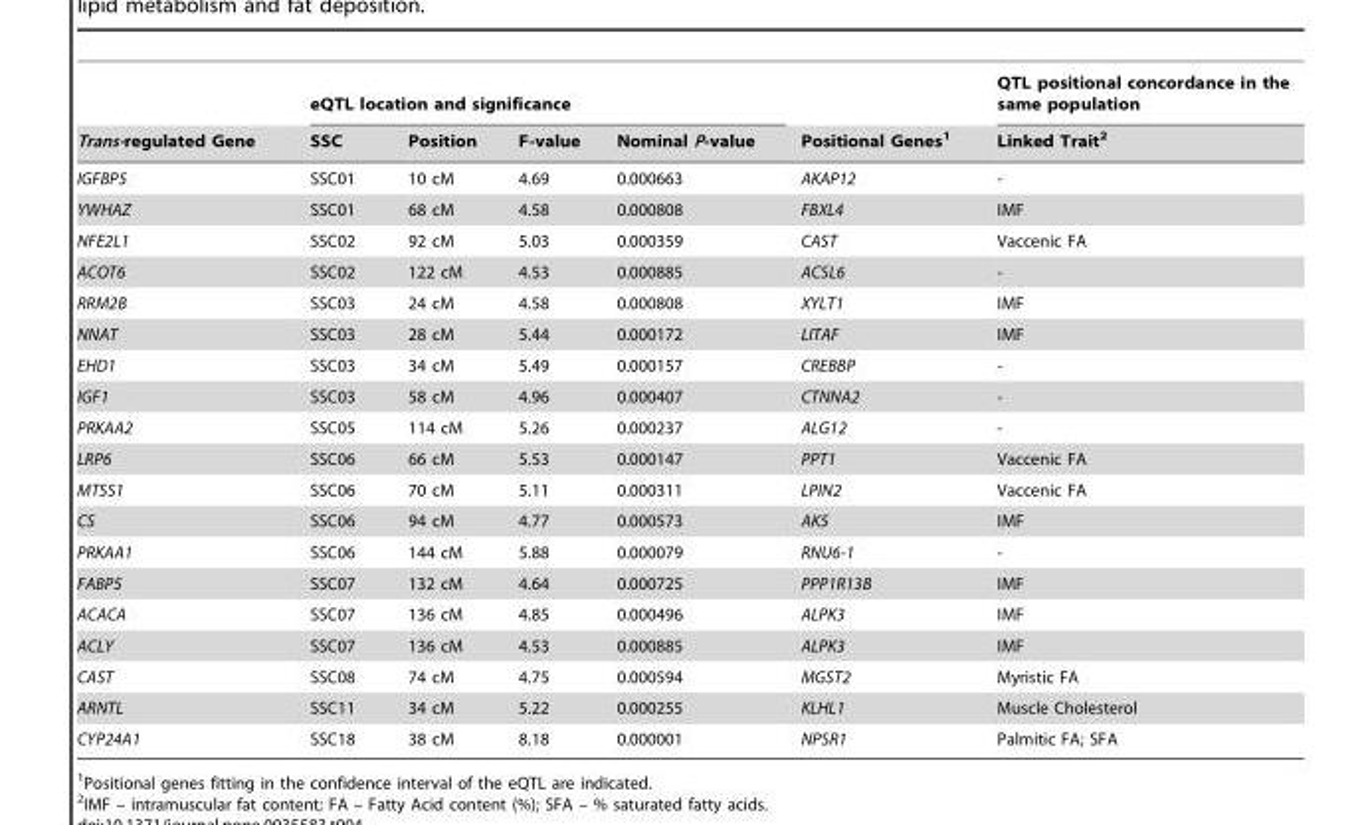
<table><thead><tr><td rowspan="2">Trans-regulated Gene</td><td colspan="4">eQTL location and significance</td><td rowspan="2">Positional Genes<sup>1</sup></td><td rowspan="2">QTL positional concordance in the same population Linked Trait<sup>2</sup></td></tr><tr><td>SSC</td><td>Position</td><td>F-value</td><td>Nominal P-value</td></tr></thead><tbody><tr><td>IGFBP5</td><td>SSC01</td><td>10 cM</td><td>4.69</td><td>0.000663</td><td>AKAP12</td><td>-</td></tr><tr><td>YWHAZ</td><td>SSC01</td><td>68 cM</td><td>4.58</td><td>0.000808</td><td>FBXL4</td><td>IMF</td></tr><tr><td>NFE2L1</td><td>SSC02</td><td>92 cM</td><td>5.03</td><td>0.000359</td><td>CAST</td><td>Vaccenic FA</td></tr><tr><td>ACOT6</td><td>SSC02</td><td>122 cM</td><td>4.53</td><td>0.000885</td><td>ACSL6</td><td>-</td></tr><tr><td>RRM2B</td><td>SSC03</td><td>24 cM</td><td>4.58</td><td>0.000808</td><td>XYLT1</td><td>IMF</td></tr><tr><td>NNAT</td><td>SSC03</td><td>28 cM</td><td>5.44</td><td>0.000172</td><td>LITAF</td><td>IMF</td></tr><tr><td>EHD1</td><td>SSC03</td><td>34 cM</td><td>5.49</td><td>0.000157</td><td>CREBBP</td><td>-</td></tr><tr><td>IGF1</td><td>SSC03</td><td>58 cM</td><td>4.96</td><td>0.000407</td><td>CTNNA2</td><td>-</td></tr><tr><td>PRKAA2</td><td>SSC05</td><td>114 cM</td><td>5.26</td><td>0.000237</td><td>ALG12</td><td>-</td></tr><tr><td>LRP6</td><td>SSC06</td><td>66 cM</td><td>5.53</td><td>0.000147</td><td>PPT1</td><td>Vaccenic FA</td></tr><tr><td>MTSS1</td><td>SSC06</td><td>70 cM</td><td>5.11</td><td>0.000311</td><td>LPIN2</td><td>Vaccenic FA</td></tr><tr><td>CS</td><td>SSC06</td><td>94 cM</td><td>4.77</td><td>0.000573</td><td>AK5</td><td>IMF</td></tr><tr><td>PRKAA1</td><td>SSC06</td><td>144 cM</td><td>5.88</td><td>0.000079</td><td>RNU6-1</td><td>-</td></tr><tr><td>FABP5</td><td>SSC07</td><td>132 cM</td><td>4.64</td><td>0.000725</td><td>PPP1R13B</td><td>IMF</td></tr><tr><td>ACACA</td><td>SSC07</td><td>136 cM</td><td>4.85</td><td>0.000496</td><td>ALPK3</td><td>IMF</td></tr><tr><td>ACLY</td><td>SSC07</td><td>136 cM</td><td>4.53</td><td>0.000885</td><td>ALPK3</td><td>IMF</td></tr><tr><td>CAST</td><td>SSC08</td><td>74 cM</td><td>4.75</td><td>0.000594</td><td>MGST2</td><td>Myristic FA</td></tr><tr><td>ARNTL</td><td>SSC11</td><td>34 cM</td><td>5.22</td><td>0.000255</td><td>KLHL1</td><td>Muscle Cholesterol</td></tr><tr><td>CYP24A1</td><td>SSC18</td><td>38 cM</td><td>8.18</td><td>0.000001</td><td>NPSR1</td><td>Palmitic FA; SFA</td></tr></tbody></table>